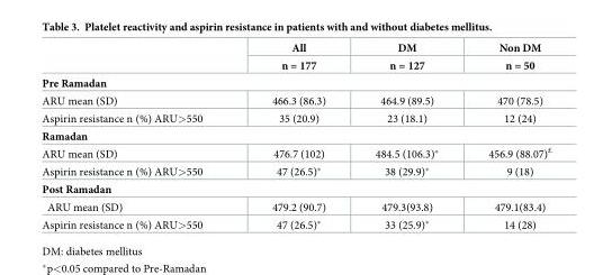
<table><thead><tr><td rowspan="2"></td><td rowspan="2">All n = 177</td><td rowspan="2">DM n = 127</td><td rowspan="2">Non DM n = 50</td></tr><tr></tr></thead><tbody><tr><td colspan="4">Pre Ramadan</td></tr><tr><td>ARU mean (SD)</td><td>466.3 (86.3)</td><td>464.9 (89.5)</td><td>470 (78.5)</td></tr><tr><td>Aspirin resistance n (%) ARU&gt;550</td><td>35 (20.9)</td><td>23 (18.1)</td><td>12 (24)</td></tr><tr><td colspan="4">Ramadan</td></tr><tr><td>ARU mean (SD)</td><td>476.7 (102)</td><td>484.5 (106.3)*</td><td>456.9 (88.07)<sup>£</sup></td></tr><tr><td>Aspirin resistance n (%) ARU&gt;550</td><td>47 (26.5)*</td><td>38 (29.9)*</td><td>9 (18)</td></tr><tr><td colspan="4">Post Ramadan</td></tr><tr><td>ARU mean (SD)</td><td>479.2 (90.7)</td><td>479.3(93.8)</td><td>479.1(83.4)</td></tr><tr><td>Aspirin resistance n (%) ARU&gt;550</td><td>47 (26.5)*</td><td>33 (25.9)*</td><td>14 (28)</td></tr></tbody></table>